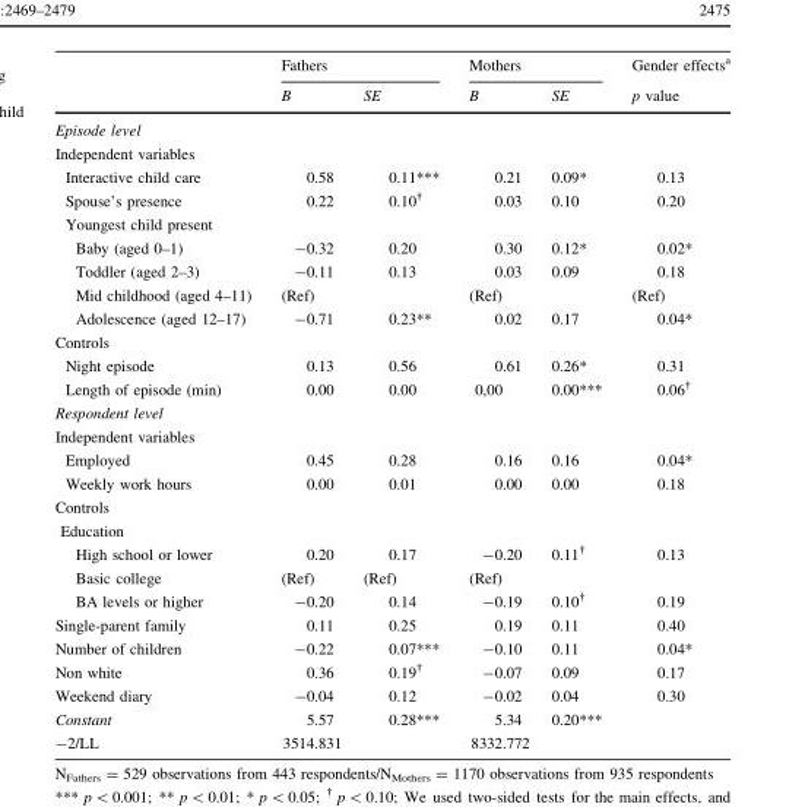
<table><thead><tr><td rowspan="2"></td><td colspan="2">Fathers</td><td colspan="2">Mothers</td><td rowspan="2">Gender effects<sup>a</sup> p value</td></tr><tr><td>B</td><td>SE</td><td>B</td><td>SE</td></tr></thead><tbody><tr><td colspan="6">Episode level</td></tr><tr><td colspan="6">Independent variables</td></tr><tr><td>Interactive child care</td><td>0.58</td><td>0.11***</td><td>0.21</td><td>0.09*</td><td>0.13</td></tr><tr><td>Spouse’s presence</td><td>0.22</td><td>0.10<sup>†</sup></td><td>0.03</td><td>0.10</td><td>0.20</td></tr><tr><td colspan="6">Youngest child present</td></tr><tr><td>Baby (aged 0–1)</td><td>-0.32</td><td>0.20</td><td>0.30</td><td>0.12*</td><td>0.02*</td></tr><tr><td>Toddler (aged 2–3)</td><td>-0.11</td><td>0.13</td><td>0.03</td><td>0.09</td><td>0.18</td></tr><tr><td>Mid childhood (aged 4–11)</td><td colspan="2">(Ref)</td><td colspan="2">(Ref)</td><td>(Ref)</td></tr><tr><td>Adolescence (aged 12–17)</td><td>-0.71</td><td>0.23**</td><td>0.02</td><td>0.17</td><td>0.04*</td></tr><tr><td colspan="6">Controls</td></tr><tr><td>Night episode</td><td>0.13</td><td>0.56</td><td>0.61</td><td>0.26*</td><td>0.31</td></tr><tr><td>Length of episode (min)</td><td>0.00</td><td>0.00</td><td>0,00</td><td>0.00***</td><td>0.06<sup>†</sup></td></tr><tr><td colspan="6">Respondent level</td></tr><tr><td colspan="6">Independent variables</td></tr><tr><td>Employed</td><td>0.45</td><td>0.28</td><td>0.16</td><td>0.16</td><td>0.04*</td></tr><tr><td>Weekly work hours</td><td>0.00</td><td>0.01</td><td>0.00</td><td>0.00</td><td>0.18</td></tr><tr><td colspan="6">Controls</td></tr><tr><td colspan="6">Education</td></tr><tr><td>High school or lower</td><td>0.20</td><td>0.17</td><td>-0.20</td><td>0.11<sup>†</sup></td><td>0.13</td></tr><tr><td>Basic college</td><td>(Ref)</td><td>(Ref)</td><td>(Ref)</td><td></td><td></td></tr><tr><td>BA levels or higher</td><td>-0.20</td><td>0.14</td><td>-0.19</td><td>0.10<sup>†</sup></td><td>0.19</td></tr><tr><td>Single-parent family</td><td>0.11</td><td>0.25</td><td>0.19</td><td>0.11</td><td>0.40</td></tr><tr><td>Number of children</td><td>-0.22</td><td>0.07***</td><td>-0.10</td><td>0.11</td><td>0.04*</td></tr><tr><td>Non white</td><td>0.36</td><td>0.19<sup>†</sup></td><td>-0.07</td><td>0.09</td><td>0.17</td></tr><tr><td>Weekend diary</td><td>-0.04</td><td>0.12</td><td>-0.02</td><td>0.04</td><td>0.30</td></tr><tr><td>Constant</td><td>5.57</td><td>0.28***</td><td>5.34</td><td>0.20***</td><td></td></tr><tr><td>-2/LL</td><td colspan="2">3514.831</td><td colspan="2">8332.772</td><td></td></tr></tbody></table>